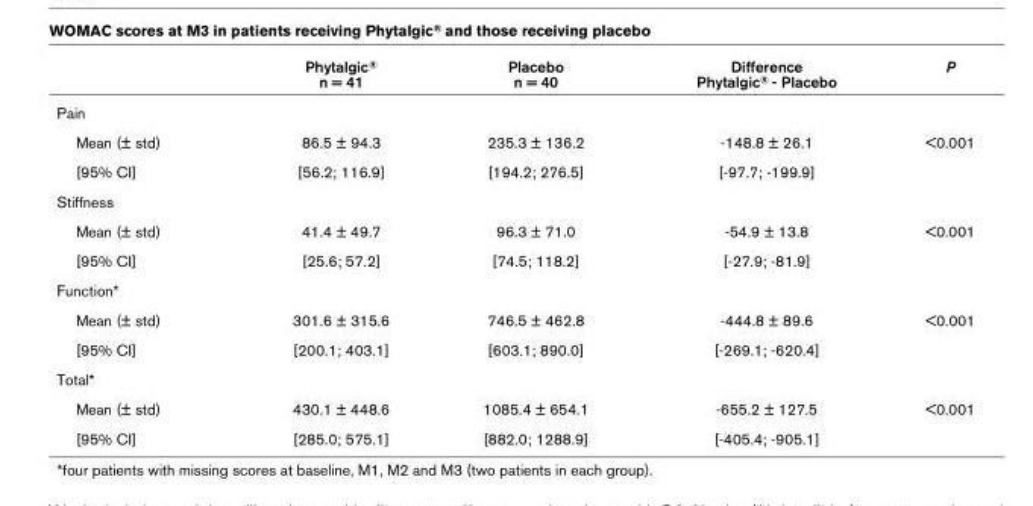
<table><thead><tr><td></td><td>Phytalgic<sup>®</sup> n = 41</td><td>Placebo n = 40</td><td>Difference Phytalgic<sup>®</sup> - Placebo</td><td>P</td></tr></thead><tbody><tr><td colspan="5">Pain</td></tr><tr><td>Mean (± std)</td><td>86.5 ± 94.3</td><td>235.3 ± 136.2</td><td>-148.8 ± 26.1</td><td>&lt;0.001</td></tr><tr><td>[95% CI]</td><td>[56.2; 116.9]</td><td>[194.2; 276.5]</td><td>[-97.7; -199.9]</td><td></td></tr><tr><td colspan="5">Stiffness</td></tr><tr><td>Mean (± std)</td><td>41.4 ± 49.7</td><td>96.3 ± 71.0</td><td>-54.9 ± 13.8</td><td>&lt;0.001</td></tr><tr><td>[95% CI]</td><td>[25.6; 57.2]</td><td>[74.5; 118.2]</td><td>[-27.9; -81.9]</td><td></td></tr><tr><td colspan="5">Function*</td></tr><tr><td>Mean (± std)</td><td>301.6 ± 315.6</td><td>746.5 ± 462.8</td><td>-444.8 ± 89.6</td><td>&lt;0.001</td></tr><tr><td>[95% CI]</td><td>[200.1; 403.1]</td><td>[603.1; 890.0]</td><td>[-269.1; -620.4]</td><td></td></tr><tr><td colspan="5">Total*</td></tr><tr><td>Mean (± std)</td><td>430.1 ± 448.6</td><td>1085.4 ± 654.1</td><td>-655.2 ± 127.5</td><td>&lt;0.001</td></tr><tr><td>[95% CI]</td><td>[285.0; 575.1]</td><td>[882.0; 1288.9]</td><td>[-405.4; -905.1]</td><td></td></tr></tbody></table>